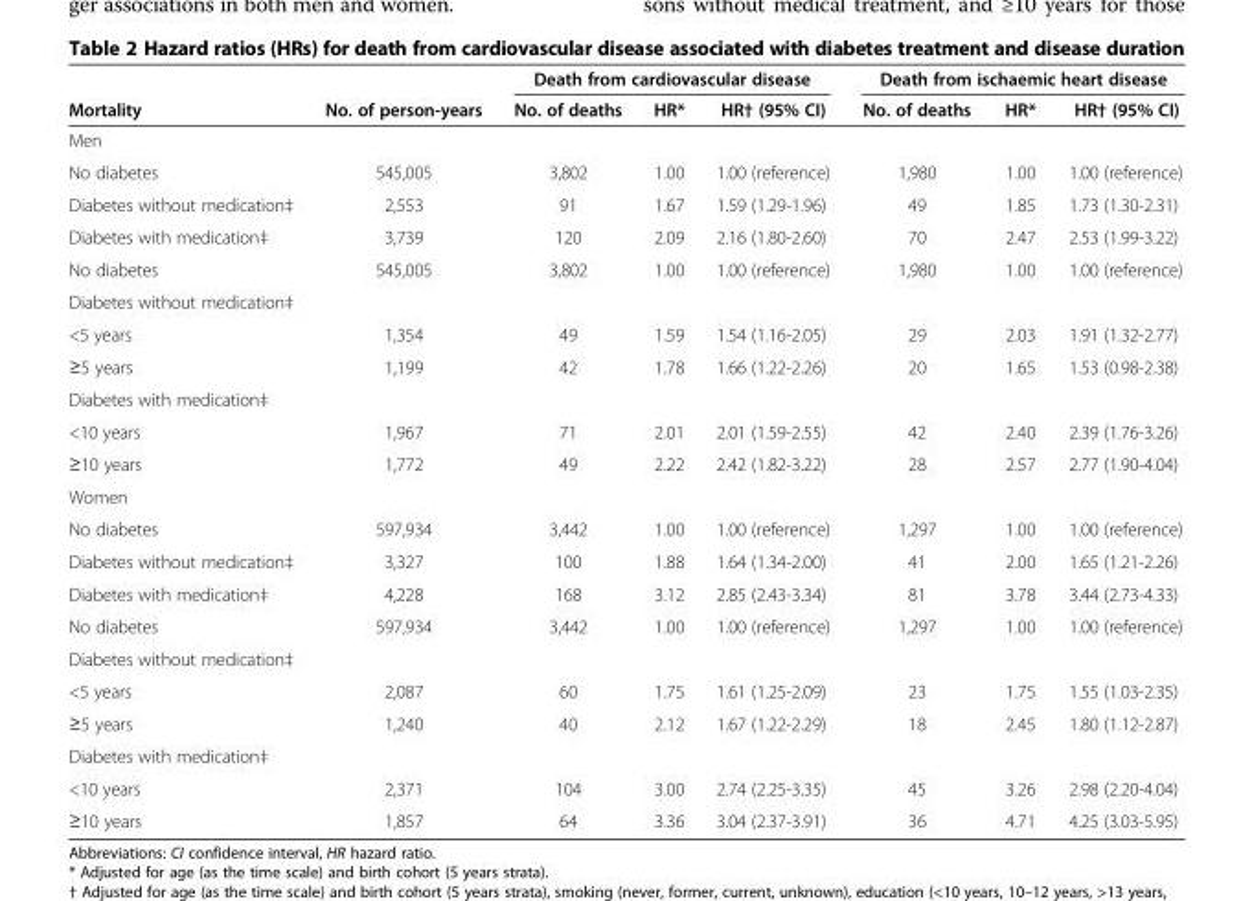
<table><thead><tr><td rowspan="2">Mortality</td><td rowspan="2">No. of person-years</td><td colspan="3">Death from cardiovascular disease</td><td colspan="3">Death from ischaemic heart disease</td></tr><tr><td>No. of deaths</td><td>HR*</td><td>HR† (95% CI)</td><td>No. of deaths</td><td>HR*</td><td>HR† (95% CI)</td></tr></thead><tbody><tr><td colspan="8">Men</td></tr><tr><td>No diabetes</td><td>545,005</td><td>3,802</td><td>1.00</td><td>1.00 (reference)</td><td>1,980</td><td>1.00</td><td>1.00 (reference)</td></tr><tr><td>Diabetes without medication‡</td><td>2,553</td><td>91</td><td>1.67</td><td>1.59 (1.29-1.96)</td><td>49</td><td>1.85</td><td>1.73 (1.30-2.31)</td></tr><tr><td>Diabetes with medication‡</td><td>3,739</td><td>120</td><td>2.09</td><td>2.16 (1.80-2.60)</td><td>70</td><td>2.47</td><td>2.53 (1.99-3.22)</td></tr><tr><td>No diabetes</td><td>545,005</td><td>3,802</td><td>1.00</td><td>1.00 (reference)</td><td>1,980</td><td>1.00</td><td>1.00 (reference)</td></tr><tr><td colspan="8">Diabetes without medication‡</td></tr><tr><td>&lt;5 years</td><td>1,354</td><td>49</td><td>1.59</td><td>1.54 (1.16-2.05)</td><td>29</td><td>2.03</td><td>1.91 (1.32-2.77)</td></tr><tr><td>≥5 years</td><td>1,199</td><td>42</td><td>1.78</td><td>1.66 (1.22-2.26)</td><td>20</td><td>1.65</td><td>1.53 (0.98-2.38)</td></tr><tr><td colspan="8">Diabetes with medication‡</td></tr><tr><td>&lt;10 years</td><td>1,967</td><td>71</td><td>2.01</td><td>2.01 (1.59-2.55)</td><td>42</td><td>2.40</td><td>2.39 (1.76-3.26)</td></tr><tr><td>≥10 years</td><td>1,772</td><td>49</td><td>2.22</td><td>2.42 (1.82-3.22)</td><td>28</td><td>2.57</td><td>2.77 (1.90-4.04)</td></tr><tr><td colspan="8">Women</td></tr><tr><td>No diabetes</td><td>597,934</td><td>3,442</td><td>1.00</td><td>1.00 (reference)</td><td>1,297</td><td>1.00</td><td>1.00 (reference)</td></tr><tr><td>Diabetes without medication‡</td><td>3,327</td><td>100</td><td>1.88</td><td>1.64 (1.34-2.00)</td><td>41</td><td>2.00</td><td>1.65 (1.21-2.26)</td></tr><tr><td>Diabetes with medication‡</td><td>4,228</td><td>168</td><td>3.12</td><td>2.85 (2.43-3.34)</td><td>81</td><td>3.78</td><td>3.44 (2.73-4.33)</td></tr><tr><td>No diabetes</td><td>597,934</td><td>3,442</td><td>1.00</td><td>1.00 (reference)</td><td>1,297</td><td>1.00</td><td>1.00 (reference)</td></tr><tr><td colspan="8">Diabetes without medication‡</td></tr><tr><td>&lt;5 years</td><td>2,087</td><td>60</td><td>1.75</td><td>1.61 (1.25-2.09)</td><td>23</td><td>1.75</td><td>1.55 (1.03-2.35)</td></tr><tr><td>≥5 years</td><td>1,240</td><td>40</td><td>2.12</td><td>1.67 (1.22-2.29)</td><td>18</td><td>2.45</td><td>1.80 (1.12-2.87)</td></tr><tr><td colspan="8">Diabetes with medication‡</td></tr><tr><td>&lt;10 years</td><td>2,371</td><td>104</td><td>3.00</td><td>2.74 (2.25-3.35)</td><td>45</td><td>3.26</td><td>2.98 (2.20-4.04)</td></tr><tr><td>≥10 years</td><td>1,857</td><td>64</td><td>3.36</td><td>3.04 (2.37-3.91)</td><td>36</td><td>4.71</td><td>4.25 (3.03-5.95)</td></tr></tbody></table>